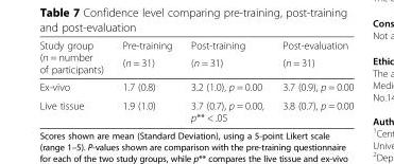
<table><thead><tr><td rowspan="2">Study group (n = number of participants)</td><td rowspan="2">Pre-training (n = 31)</td><td rowspan="2">Post-training (n = 31)</td><td rowspan="2">Post-evaluation (n = 31)</td></tr><tr></tr></thead><tbody><tr><td>Ex-vivo</td><td>1.7 (0.8)</td><td>3.2 (1.0), p = 0.00</td><td>3.7 (0.9), p = 0.00</td></tr><tr><td>Live tissue</td><td>1.9 (1.0)</td><td>3.7 (0.7), p = 0.00, p** &lt; .05</td><td>3.8 (0.7), p = 0.00</td></tr></tbody></table>